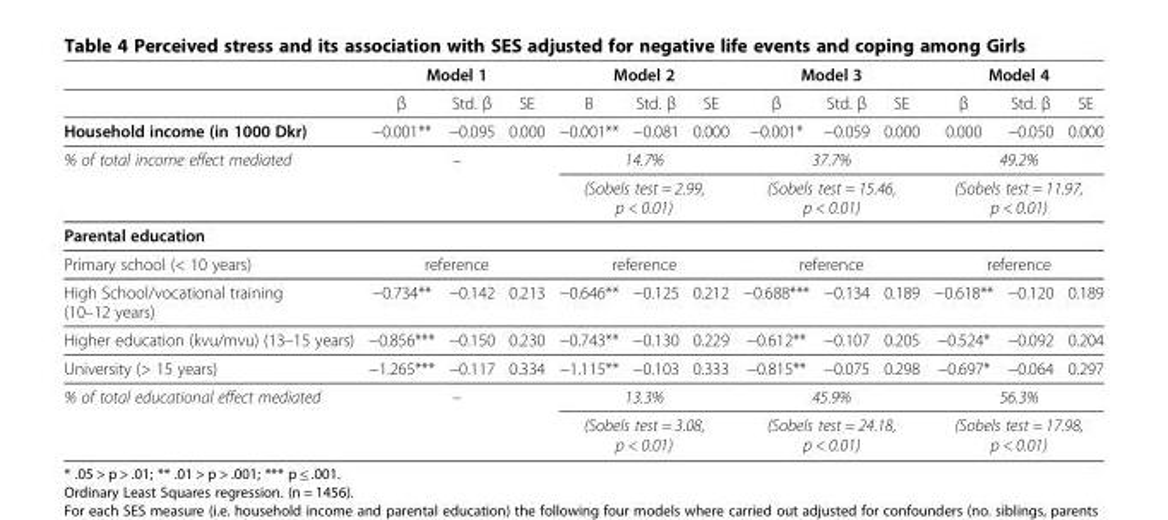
<table><thead><tr><td rowspan="2"></td><td colspan="3">Model 1</td><td colspan="3">Model 2</td><td colspan="3">Model 3</td><td colspan="3">Model 4</td></tr><tr><td>β</td><td>Std. β</td><td>SE</td><td>Β</td><td>Std. β</td><td>SE</td><td>β</td><td>Std. β</td><td>SE</td><td>β</td><td>Std. β</td><td>SE</td></tr></thead><tbody><tr><td>Household income (in 1000 Dkr)</td><td>−0.001**</td><td>−0.095</td><td>0.000</td><td>−0.001**</td><td>−0.081</td><td>0.000</td><td>−0.001*</td><td>−0.059</td><td>0.000</td><td>0.000</td><td>−0.050</td><td>0.000</td></tr><tr><td rowspan="2">% of total income effect mediated</td><td rowspan="2" colspan="3">–</td><td colspan="3">14.7%</td><td colspan="3">37.7%</td><td colspan="3">49.2%</td></tr><tr><td colspan="3">(Sobels test = 2.99, p &lt; 0.01)</td><td colspan="3">(Sobels test = 15.46, p &lt; 0.01)</td><td colspan="3">(Sobels test = 11.97, p &lt; 0.01)</td></tr><tr><td colspan="13">Parental education</td></tr><tr><td>Primary school (&lt; 10 years)</td><td colspan="3">reference</td><td colspan="3">reference</td><td colspan="3">reference</td><td colspan="3">reference</td></tr><tr><td>High School/vocational training (10–12 years)</td><td>−0.734**</td><td>−0.142</td><td>0.213</td><td>−0.646**</td><td>−0.125</td><td>0.212</td><td>−0.688***</td><td>−0.134</td><td>0.189</td><td>−0.618**</td><td>−0.120</td><td>0.189</td></tr><tr><td>Higher education (kvu/mvu) (13–15 years)</td><td>−0.856***</td><td>−0.150</td><td>0.230</td><td>−0.743**</td><td>−0.130</td><td>0.229</td><td>−0.612**</td><td>−0.107</td><td>0.205</td><td>−0.524*</td><td>−0.092</td><td>0.204</td></tr><tr><td>University (&gt; 15 years)</td><td>−1.265***</td><td>−0.117</td><td>0.334</td><td>−1.115**</td><td>−0.103</td><td>0.333</td><td>−0.815**</td><td>−0.075</td><td>0.298</td><td>−0.697*</td><td>−0.064</td><td>0.297</td></tr><tr><td rowspan="2">% of total educational effect mediated</td><td rowspan="2" colspan="3">–</td><td colspan="3">13.3%</td><td colspan="3">45.9%</td><td colspan="3">56.3%</td></tr><tr><td colspan="3">(Sobels test = 3.08, p &lt; 0.01)</td><td colspan="3">(Sobels test = 24.18, p &lt; 0.01)</td><td colspan="3">(Sobels test = 17.98, p &lt; 0.01)</td></tr></tbody></table>